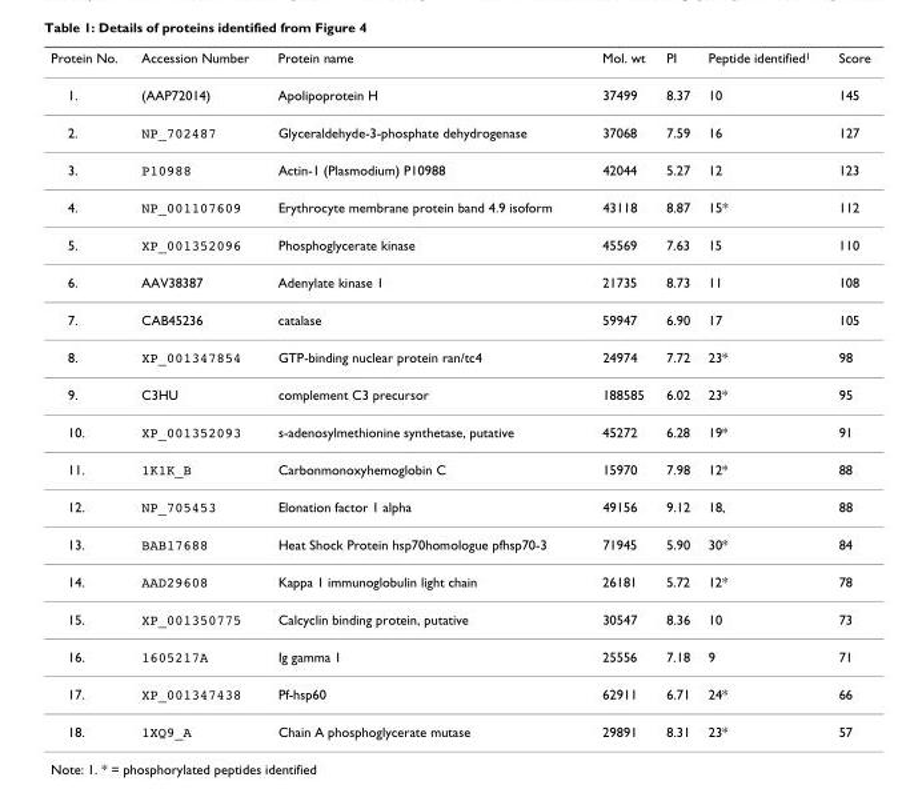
<table><thead><tr><td>Protein No.</td><td>Accession Number</td><td>Protein name</td><td>Mol. wt</td><td>PI</td><td>Peptide identified<sup>1</sup></td><td>Score</td></tr></thead><tbody><tr><td>1.</td><td>(AAP72014)</td><td>Apolipoprotein H</td><td>37499</td><td>8.37</td><td>10</td><td>145</td></tr><tr><td>2.</td><td>NP_702487</td><td>Glyceraldehyde-3-phosphate dehydrogenase</td><td>37068</td><td>7.59</td><td>16</td><td>127</td></tr><tr><td>3.</td><td>P10988</td><td>Actin-1 (Plasmodium) P10988</td><td>42044</td><td>5.27</td><td>12</td><td>123</td></tr><tr><td>4.</td><td>NP_001107609</td><td>Erythrocyte membrane protein band 4.9 isoform</td><td>43118</td><td>8.87</td><td>15*</td><td>112</td></tr><tr><td>5.</td><td>XP_001352096</td><td>Phosphoglycerate kinase</td><td>45569</td><td>7.63</td><td>15</td><td>110</td></tr><tr><td>6.</td><td>AAV38387</td><td>Adenylate kinase 1</td><td>21735</td><td>8.73</td><td>11</td><td>108</td></tr><tr><td>7.</td><td>CAB45236</td><td>catalase</td><td>59947</td><td>6.90</td><td>17</td><td>105</td></tr><tr><td>8.</td><td>XP_001347854</td><td>GTP-binding nuclear protein ran/tc4</td><td>24974</td><td>7.72</td><td>23*</td><td>98</td></tr><tr><td>9.</td><td>C3HU</td><td>complement C3 precursor</td><td>188585</td><td>6.02</td><td>23*</td><td>95</td></tr><tr><td>10.</td><td>XP_001352093</td><td>s-adenosylmethionine synthetase, putative</td><td>45272</td><td>6.28</td><td>19*</td><td>91</td></tr><tr><td>11.</td><td>1K1K_B</td><td>Carbonmonoxyhemoglobin C</td><td>15970</td><td>7.98</td><td>12*</td><td>88</td></tr><tr><td>12.</td><td>NP_705453</td><td>Elonation factor 1 alpha</td><td>49156</td><td>9.12</td><td>18,</td><td>88</td></tr><tr><td>13.</td><td>BAB17688</td><td>Heat Shock Protein hsp70homologue pfhsp70-3</td><td>71945</td><td>5.90</td><td>30*</td><td>84</td></tr><tr><td>14.</td><td>AAD29608</td><td>Kappa 1 immunoglobulin light chain</td><td>26181</td><td>5.72</td><td>12*</td><td>78</td></tr><tr><td>15.</td><td>XP_001350775</td><td>Calcyclin binding protein, putative</td><td>30547</td><td>8.36</td><td>10</td><td>73</td></tr><tr><td>16.</td><td>1605217A</td><td>Ig gamma 1</td><td>25556</td><td>7.18</td><td>9</td><td>71</td></tr><tr><td>17.</td><td>XP_001347438</td><td>Pf-hsp60</td><td>62911</td><td>6.71</td><td>24*</td><td>66</td></tr><tr><td>18.</td><td>1XQ9_A</td><td>Chain A phosphoglycerate mutase</td><td>29891</td><td>8.31</td><td>23*</td><td>57</td></tr></tbody></table>